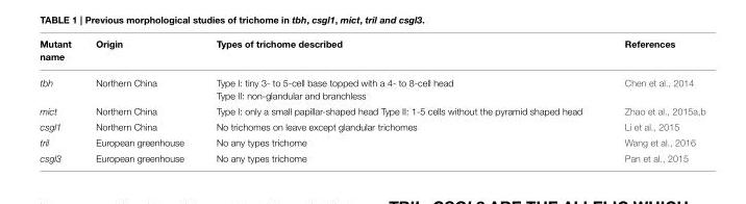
<table><thead><tr><td>Mutant name</td><td>Origin</td><td>Types of trichome described</td><td>References</td></tr></thead><tbody><tr><td>tbh</td><td>Northern China</td><td>Type I: tiny 3- to 5-cell base topped with a 4- to 8-cell head Type II: non-glandular and branchless</td><td>Chen et al., 2014</td></tr><tr><td>mict</td><td>Northern China</td><td>Type I: only a small papillar-shaped head Type II: 1-5 cells without the pyramid shaped head</td><td>Zhao et al., 2015a,b</td></tr><tr><td>csgl1</td><td>Northern China</td><td>No trichomes on leave except glandular trichomes</td><td>Li et al., 2015</td></tr><tr><td>tril</td><td>European greenhouse</td><td>No any types trichome</td><td>Wang et al., 2016</td></tr><tr><td>csgl3</td><td>European greenhouse</td><td>No any types trichome</td><td>Pan et al., 2015</td></tr></tbody></table>